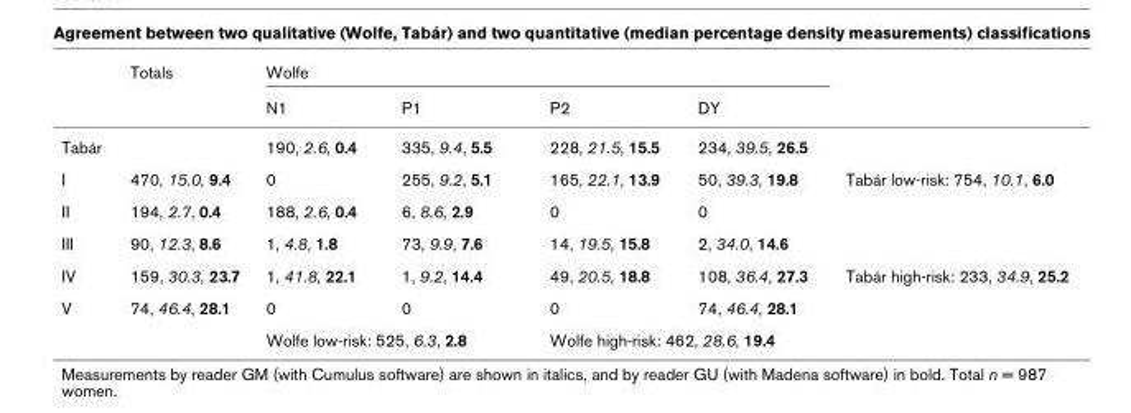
<table><thead><tr><td rowspan="2"></td><td rowspan="2">Totals</td><td colspan="4">Wolfe</td><td rowspan="2"></td></tr><tr><td>N1</td><td>P1</td><td>P2</td><td>DY</td></tr></thead><tbody><tr><td>Tabár</td><td></td><td>190, 2.6, 0.4</td><td>335, 9.4, 5.5</td><td>228, 21.5, 15.5</td><td>234, 39.5, 26.5</td><td></td></tr><tr><td>I</td><td>470, 15.0, 9.4</td><td>0</td><td>255, 9.2, 5.1</td><td>165, 22.1, 13.9</td><td>50, 39.3, 19.8</td><td>Tabár low-risk: 754, 10.1, 6.0</td></tr><tr><td>II</td><td>194, 2.7, 0.4</td><td>188, 2.6, 0.4</td><td>6, 8.6, 2.9</td><td>0</td><td>0</td><td></td></tr><tr><td>III</td><td>90, 12.3, 8.6</td><td>1, 4.8, 1.8</td><td>73, 9.9, 7.6</td><td>14, 19.5, 15.8</td><td>2, 34.0, 14.6</td><td></td></tr><tr><td>IV</td><td>159, 30.3, 23.7</td><td>1, 41.8, 22.1</td><td>1, 9.2, 14.4</td><td>49, 20.5, 18.8</td><td>108, 36.4, 27.3</td><td>Tabár high-risk: 233, 34.9, 25.2</td></tr><tr><td rowspan="2">V</td><td>74, 46.4, 28.1</td><td>0</td><td>0</td><td>0</td><td>74, 46.4, 28.1</td><td></td></tr><tr><td></td><td colspan="2">Wolfe low-risk: 525, 6.3, 2.8</td><td colspan="2">Wolfe high-risk: 462, 28.6, 19.4</td><td></td></tr></tbody></table>